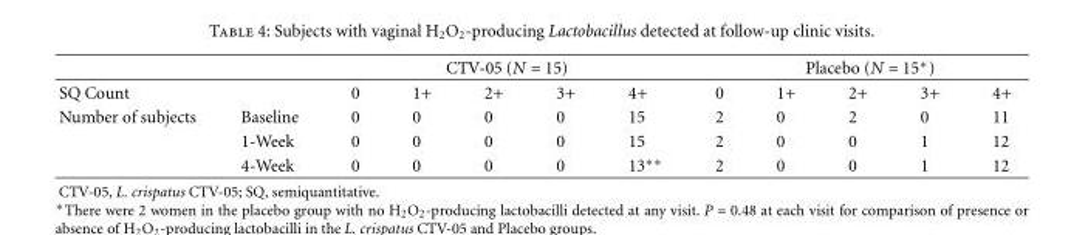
<table><thead><tr><td rowspan="2">SQ Count</td><td rowspan="2"></td><td colspan="5">CTV-05 (N = 15)</td><td colspan="5">Placebo (N = 15∗)</td></tr><tr><td>0</td><td>1+</td><td>2+</td><td>3+</td><td>4+</td><td>0</td><td>1+</td><td>2+</td><td>3+</td><td>4+</td></tr></thead><tbody><tr><td rowspan="3">Number of subjects</td><td>Baseline</td><td>0</td><td>0</td><td>0</td><td>0</td><td>15</td><td>2</td><td>0</td><td>2</td><td>0</td><td>11</td></tr><tr><td>1-Week</td><td>0</td><td>0</td><td>0</td><td>0</td><td>15</td><td>2</td><td>0</td><td>0</td><td>1</td><td>12</td></tr><tr><td>4-Week</td><td>0</td><td>0</td><td>0</td><td>0</td><td>13∗∗</td><td>2</td><td>0</td><td>0</td><td>1</td><td>12</td></tr></tbody></table>